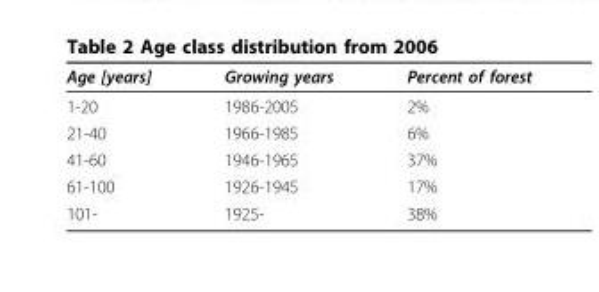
<table><thead><tr><td>Age [years]</td><td>Growing years</td><td>Percent of forest</td></tr></thead><tbody><tr><td>1-20</td><td>1986-2005</td><td>2%</td></tr><tr><td>21-40</td><td>1966-1985</td><td>6%</td></tr><tr><td>41-60</td><td>1946-1965</td><td>37%</td></tr><tr><td>61-100</td><td>1926-1945</td><td>17%</td></tr><tr><td>101-</td><td>1925-</td><td>38%</td></tr></tbody></table>